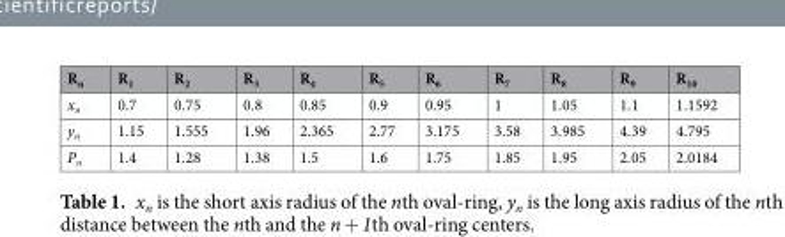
<table><thead><tr><td>R<sub>n</sub></td><td>R<sub>1</sub></td><td>R<sub>2</sub></td><td>R<sub>3</sub></td><td>R<sub>4</sub></td><td>R<sub>5</sub></td><td>R<sub>6</sub></td><td>R<sub>7</sub></td><td>R<sub>8</sub></td><td>R<sub>9</sub></td><td>R<sub>10</sub></td></tr></thead><tbody><tr><td>x<sub>n</sub></td><td>0.7</td><td>0.75</td><td>0.8</td><td>0.85</td><td>0.9</td><td>0.95</td><td>1</td><td>1.05</td><td>1.1</td><td>1.1592</td></tr><tr><td>y<sub>n</sub></td><td>1.15</td><td>1.555</td><td>1.96</td><td>2.365</td><td>2.77</td><td>3.175</td><td>3.58</td><td>3.985</td><td>4.39</td><td>4.795</td></tr><tr><td>P<sub>n</sub></td><td>1.4</td><td>1.28</td><td>1.38</td><td>1.5</td><td>1.6</td><td>1.75</td><td>1.85</td><td>1.95</td><td>2.05</td><td>2.0184</td></tr></tbody></table>